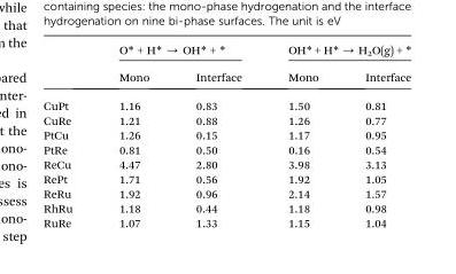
<table><thead><tr><td rowspan="2"></td><td colspan="2">O* + H* → OH* + *</td><td colspan="2">OH* + H* → H<sub>2</sub>O(g) + *</td></tr><tr><td>Mono</td><td>Interface</td><td>Mono</td><td>Interface</td></tr></thead><tbody><tr><td>CuPt</td><td>1.16</td><td>0.83</td><td>1.50</td><td>0.81</td></tr><tr><td>CuRe</td><td>1.21</td><td>0.88</td><td>1.26</td><td>0.77</td></tr><tr><td>PtCu</td><td>1.26</td><td>0.15</td><td>1.17</td><td>0.95</td></tr><tr><td>PtRe</td><td>0.81</td><td>0.50</td><td>0.16</td><td>0.54</td></tr><tr><td>ReCu</td><td>4.47</td><td>2.80</td><td>3.98</td><td>3.13</td></tr><tr><td>RePt</td><td>1.71</td><td>0.56</td><td>1.92</td><td>1.05</td></tr><tr><td>ReRu</td><td>1.92</td><td>0.96</td><td>2.14</td><td>1.57</td></tr><tr><td>RhRu</td><td>1.18</td><td>0.44</td><td>1.18</td><td>0.98</td></tr><tr><td>RuRe</td><td>1.07</td><td>1.33</td><td>1.15</td><td>1.04</td></tr></tbody></table>